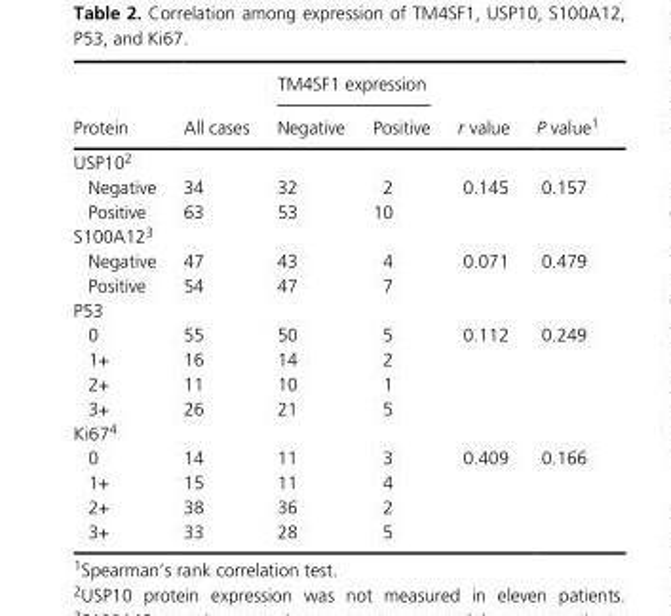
<table><thead><tr><td rowspan="2">Protein</td><td rowspan="2">All cases</td><td colspan="2">TM4SF1 expression</td><td rowspan="2">r value</td><td rowspan="2">P value1</td></tr><tr><td>Negative</td><td>Positive</td></tr></thead><tbody><tr><td colspan="6">USP102</td></tr><tr><td>Negative</td><td>34</td><td>32</td><td>2</td><td rowspan="2">0.145</td><td rowspan="2">0.157</td></tr><tr><td>Positive</td><td>63</td><td>53</td><td>10</td></tr><tr><td colspan="6">S100A123</td></tr><tr><td>Negative</td><td>47</td><td>43</td><td>4</td><td rowspan="2">0.071</td><td rowspan="2">0.479</td></tr><tr><td>Positive</td><td>54</td><td>47</td><td>7</td></tr><tr><td colspan="6">P53</td></tr><tr><td>0</td><td>55</td><td>50</td><td>5</td><td rowspan="4">0.112</td><td rowspan="4">0.249</td></tr><tr><td>1+</td><td>16</td><td>14</td><td>2</td></tr><tr><td>2+</td><td>11</td><td>10</td><td>1</td></tr><tr><td>3+</td><td>26</td><td>21</td><td>5</td></tr><tr><td colspan="6">Ki674</td></tr><tr><td>0</td><td>14</td><td>11</td><td>3</td><td rowspan="4">0.409</td><td rowspan="4">0.166</td></tr><tr><td>1+</td><td>15</td><td>11</td><td>4</td></tr><tr><td>2+</td><td>38</td><td>36</td><td>2</td></tr><tr><td>3+</td><td>33</td><td>28</td><td>5</td></tr></tbody></table>